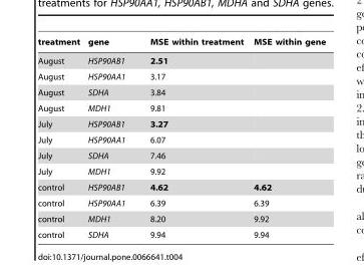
<table><thead><tr><td>treatment</td><td>gene</td><td>MSE within treatment</td><td>MSE within gene</td></tr></thead><tbody><tr><td>August</td><td>HSP90AB1</td><td>2.51</td><td></td></tr><tr><td>August</td><td>HSP90AA1</td><td>3.17</td><td></td></tr><tr><td>August</td><td>SDHA</td><td>3.84</td><td></td></tr><tr><td>August</td><td>MDH1</td><td>9.81</td><td></td></tr><tr><td>July</td><td>HSP90AB1</td><td>3.27</td><td></td></tr><tr><td>July</td><td>HSP90AA1</td><td>6.07</td><td></td></tr><tr><td>July</td><td>SDHA</td><td>7.46</td><td></td></tr><tr><td>July</td><td>MDH1</td><td>9.92</td><td></td></tr><tr><td>control</td><td>HSP90AB1</td><td>4.62</td><td>4.62</td></tr><tr><td>control</td><td>HSP90AA1</td><td>6.39</td><td>6.39</td></tr><tr><td>control</td><td>MDH1</td><td>8.20</td><td>9.92</td></tr><tr><td>control</td><td>SDHA</td><td>9.94</td><td>9.94</td></tr></tbody></table>